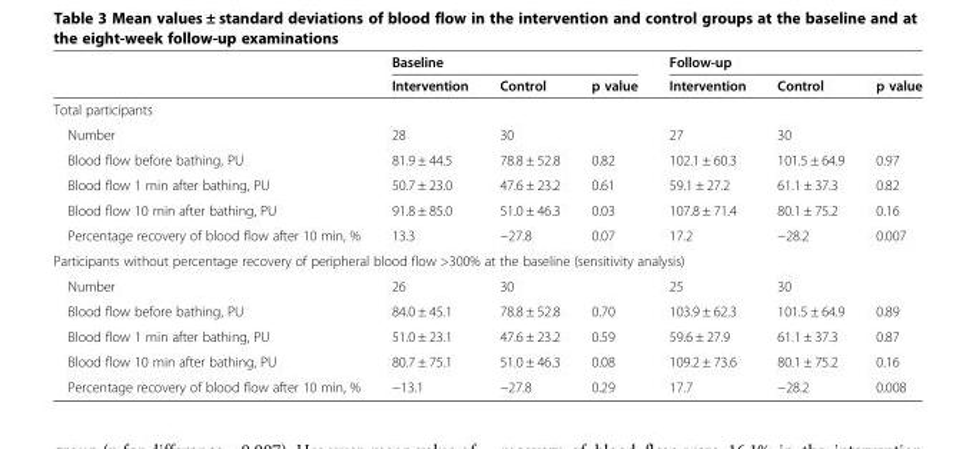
<table><thead><tr><td rowspan="2"></td><td colspan="3">Baseline</td><td colspan="3">Follow-up</td></tr><tr><td>Intervention</td><td>Control</td><td>p value</td><td>Intervention</td><td>Control</td><td>p value</td></tr></thead><tbody><tr><td colspan="7">Total participants</td></tr><tr><td>Number</td><td>28</td><td>30</td><td></td><td>27</td><td>30</td><td></td></tr><tr><td>Blood flow before bathing, PU</td><td>81.9 ± 44.5</td><td>78.8 ± 52.8</td><td>0.82</td><td>102.1 ± 60.3</td><td>101.5 ± 64.9</td><td>0.97</td></tr><tr><td>Blood flow 1 min after bathing, PU</td><td>50.7 ± 23.0</td><td>47.6 ± 23.2</td><td>0.61</td><td>59.1 ± 27.2</td><td>61.1 ± 37.3</td><td>0.82</td></tr><tr><td>Blood flow 10 min after bathing, PU</td><td>91.8 ± 85.0</td><td>51.0 ± 46.3</td><td>0.03</td><td>107.8 ± 71.4</td><td>80.1 ± 75.2</td><td>0.16</td></tr><tr><td>Percentage recovery of blood flow after 10 min, %</td><td>13.3</td><td>−27.8</td><td>0.07</td><td>17.2</td><td>−28.2</td><td>0.007</td></tr><tr><td colspan="7">Participants without percentage recovery of peripheral blood flow &gt;300% at the baseline (sensitivity analysis)</td></tr><tr><td>Number</td><td>26</td><td>30</td><td></td><td>25</td><td>30</td><td></td></tr><tr><td>Blood flow before bathing, PU</td><td>84.0 ± 45.1</td><td>78.8 ± 52.8</td><td>0.70</td><td>103.9 ± 62.3</td><td>101.5 ± 64.9</td><td>0.89</td></tr><tr><td>Blood flow 1 min after bathing, PU</td><td>51.0 ± 23.1</td><td>47.6 ± 23.2</td><td>0.59</td><td>59.6 ± 27.9</td><td>61.1 ± 37.3</td><td>0.87</td></tr><tr><td>Blood flow 10 min after bathing, PU</td><td>80.7 ± 75.1</td><td>51.0 ± 46.3</td><td>0.08</td><td>109.2 ± 73.6</td><td>80.1 ± 75.2</td><td>0.16</td></tr><tr><td>Percentage recovery of blood flow after 10 min, %</td><td>−13.1</td><td>−27.8</td><td>0.29</td><td>17.7</td><td>−28.2</td><td>0.008</td></tr></tbody></table>